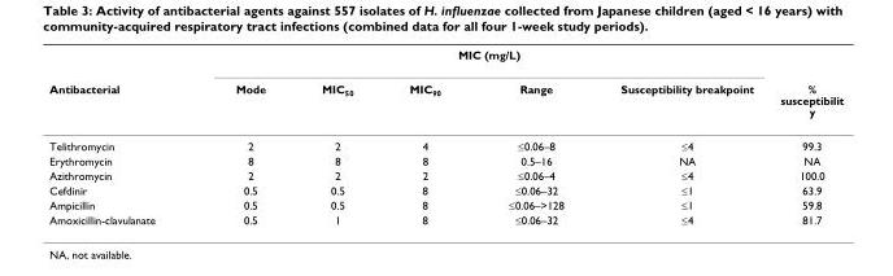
<table><thead><tr><td rowspan="2">Antibacterial</td><td colspan="5">MIC (mg/L)</td><td rowspan="2">% susceptibilit y</td></tr><tr><td>Mode</td><td>MIC<sub>50</sub></td><td>MIC<sub>90</sub></td><td>Range</td><td>Susceptibility breakpoint</td></tr></thead><tbody><tr><td>Telithromycin</td><td>2</td><td>2</td><td>4</td><td>≤0.06–8</td><td>≤4</td><td>99.3</td></tr><tr><td>Erythromycin</td><td>8</td><td>8</td><td>8</td><td>0.5–16</td><td>NA</td><td>NA</td></tr><tr><td>Azithromycin</td><td>2</td><td>2</td><td>2</td><td>≤0.06–4</td><td>≤4</td><td>100.0</td></tr><tr><td>Cefdinir</td><td>0.5</td><td>0.5</td><td>8</td><td>≤0.06–32</td><td>≤1</td><td>63.9</td></tr><tr><td>Ampicillin</td><td>0.5</td><td>0.5</td><td>8</td><td>≤0.06–&gt;128</td><td>≤1</td><td>59.8</td></tr><tr><td>Amoxicillin-clavulanate</td><td>0.5</td><td>1</td><td>8</td><td>≤0.06–32</td><td>≤4</td><td>81.7</td></tr></tbody></table>